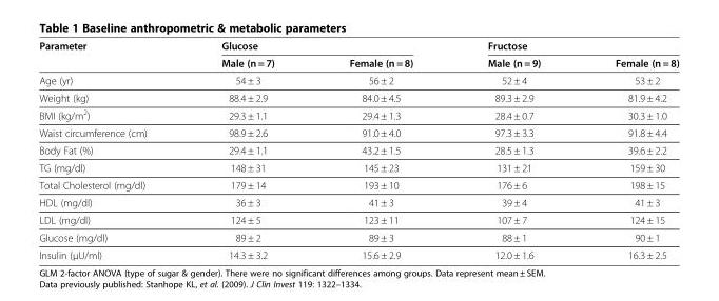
<table><thead><tr><td rowspan="2">Parameter</td><td colspan="2">Glucose</td><td colspan="2">Fructose</td></tr><tr><td>Male (n = 7)</td><td>Female (n = 8)</td><td>Male (n = 9)</td><td>Female (n = 8)</td></tr></thead><tbody><tr><td>Age (yr)</td><td>54 ± 3</td><td>56 ± 2</td><td>52 ± 4</td><td>53 ± 2</td></tr><tr><td>Weight (kg)</td><td>88.4 ± 2.9</td><td>84.0 ± 4.5</td><td>89.3 ± 2.9</td><td>81.9 ± 4.2</td></tr><tr><td>BMI (kg/m<sup>2</sup>)</td><td>29.3 ± 1.1</td><td>29.4 ± 1.3</td><td>28.4 ± 0.7</td><td>30.3 ± 1.0</td></tr><tr><td>Waist circumference (cm)</td><td>98.9 ± 2.6</td><td>91.0 ± 4.0</td><td>97.3 ± 3.3</td><td>91.8 ± 4.4</td></tr><tr><td>Body Fat (%)</td><td>29.4 ± 1.1</td><td>43.2 ± 1.5</td><td>28.5 ± 1.3</td><td>39.6 ± 2.2</td></tr><tr><td>TG (mg/dl)</td><td>148 ± 31</td><td>145 ± 23</td><td>131 ± 21</td><td>159 ± 30</td></tr><tr><td>Total Cholesterol (mg/dl)</td><td>179 ± 14</td><td>193 ± 10</td><td>176 ± 6</td><td>198 ± 15</td></tr><tr><td>HDL (mg/dl)</td><td>36 ± 3</td><td>41 ± 3</td><td>39 ± 4</td><td>41 ± 3</td></tr><tr><td>LDL (mg/dl)</td><td>124 ± 5</td><td>123 ± 11</td><td>107 ± 7</td><td>124 ± 15</td></tr><tr><td>Glucose (mg/dl)</td><td>89 ± 2</td><td>89 ± 3</td><td>88 ± 1</td><td>90 ± 1</td></tr><tr><td>Insulin (μU/ml)</td><td>14.3 ± 3.2</td><td>15.6 ± 2.9</td><td>12.0 ± 1.6</td><td>16.3 ± 2.5</td></tr></tbody></table>